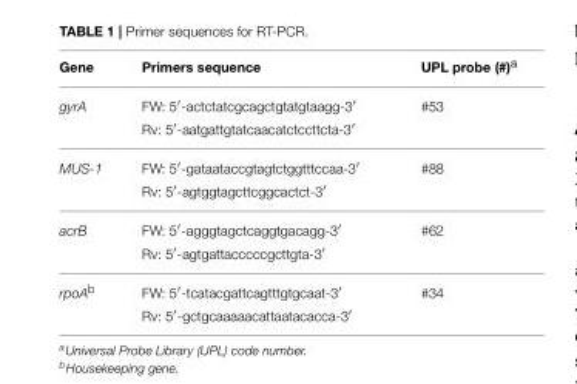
<table><thead><tr><td>Gene</td><td>Primers sequence</td><td>UPL probe (#)<sup>a</sup></td></tr></thead><tbody><tr><td rowspan="2">gyrA</td><td>FW: 5′-actctatcgcagctgtatgtaagg-3′</td><td>#53</td></tr><tr><td>Rv: 5′-aatgattgtatcaacatctccttcta-3′</td><td></td></tr><tr><td rowspan="2">MUS-1</td><td>FW: 5′-gataataccgtagtctggtttccaa-3′</td><td>#88</td></tr><tr><td>Rv: 5′-agtggtagcttcggcactct-3′</td><td></td></tr><tr><td rowspan="2">acrB</td><td>FW: 5′-agggtagctcaggtgacagg-3′</td><td>#62</td></tr><tr><td>Rv: 5′-agtgattacccccgcttgta-3′</td><td></td></tr><tr><td rowspan="2">rpoA<sup>b</sup></td><td>FW: 5′-tcatacgattcagtttgtgcaat-3′</td><td>#34</td></tr><tr><td>Rv: 5′-gctgcaaaaacattaatacacca-3′</td><td></td></tr></tbody></table>